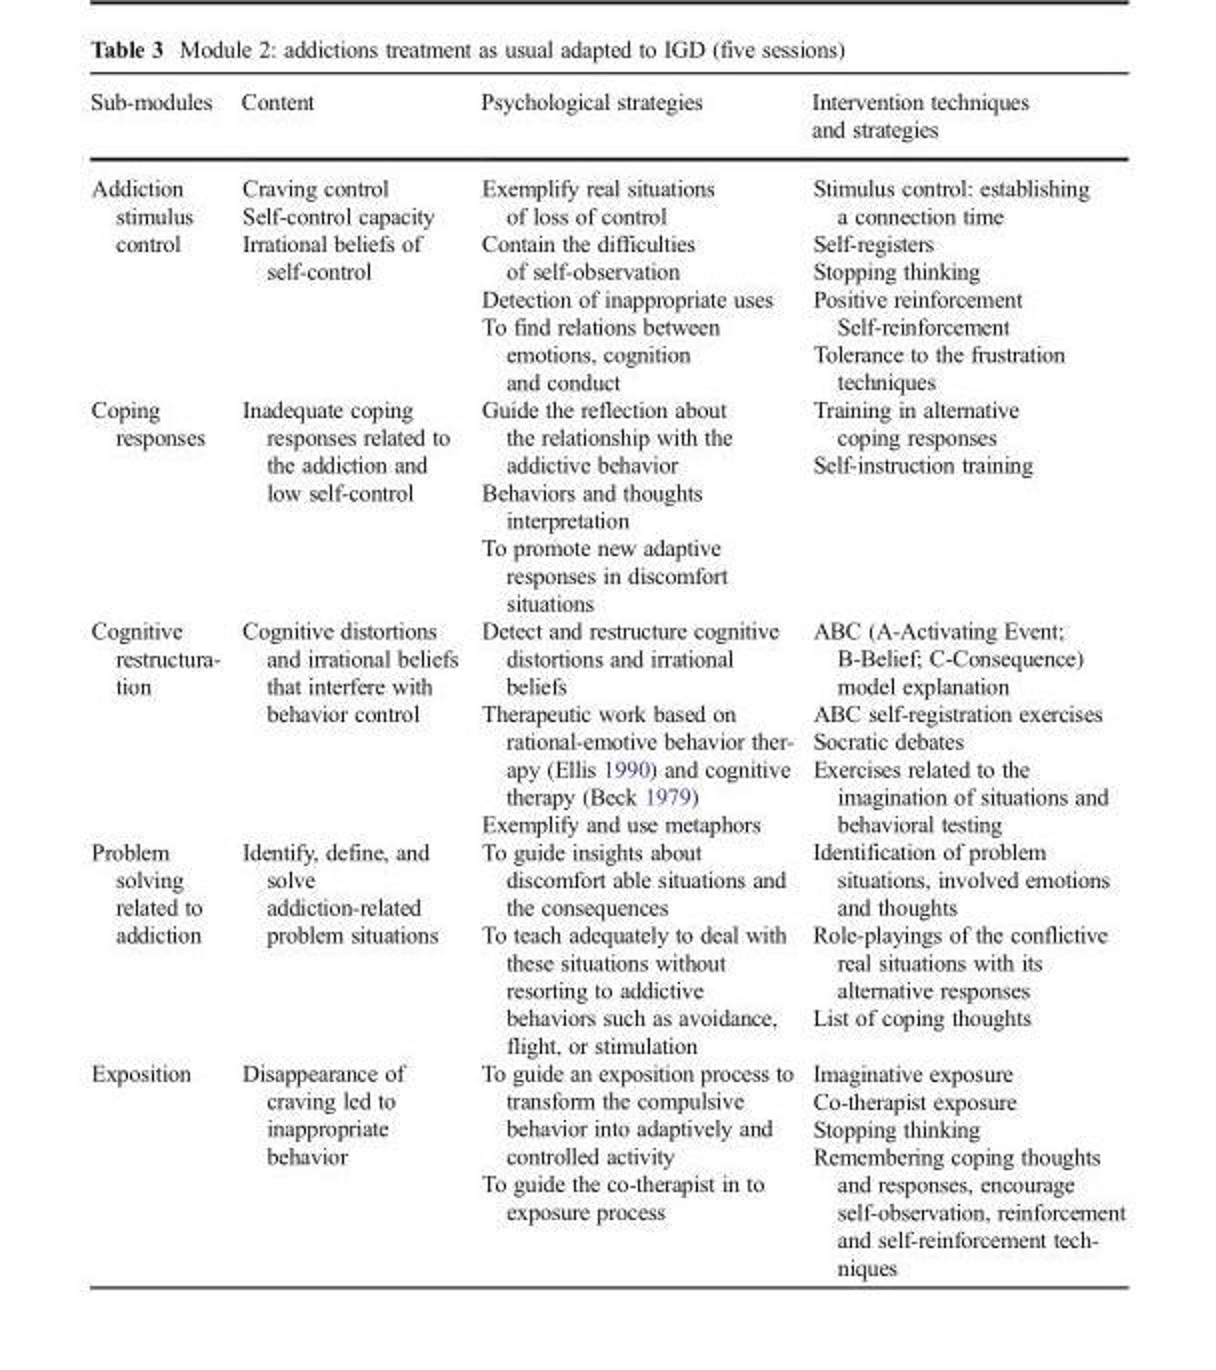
<table><thead><tr><td>Sub-modules</td><td>Content</td><td>Psychological strategies</td><td>Intervention techniques and strategies</td></tr></thead><tbody><tr><td>Addiction stimulus control</td><td>Craving control Self-control capacity Irrational beliefs of self-control</td><td>Exemplify real situations of loss of control Contain the difficulties of self-observation Detection of inappropriate uses To find relations between emotions, cognition and conduct</td><td>Stimulus control: establishing a connection time Self-registers Stopping thinking Positive reinforcement Self-reinforcement Tolerance to the frustration techniques</td></tr><tr><td>Coping responses</td><td>Inadequate coping responses related to the addiction and low self-control</td><td>Guide the reflection about the relationship with the addictive behavior Behaviors and thoughts interpretation To promote new adaptive responses in discomfort situations</td><td>Training in alternative coping responses Self-instruction training</td></tr><tr><td>Cognitive restructura- tion</td><td>Cognitive distortions and irrational beliefs that interfere with behavior control</td><td>Detect and restructure cognitive distortions and irrational beliefs Therapeutic work based on rational-emotive behavior ther- apy (Ellis 1990) and cognitive therapy (Beck 1979) Exemplify and use metaphors</td><td>ABC (A-Activating Event; B-Belief; C-Consequence) model explanation ABC self-registration exercises Socratic debates Exercises related to the imagination of situations and behavioral testing</td></tr><tr><td>Problem solving related to addiction</td><td>Identify, define, and solve addiction-related problem situations</td><td>To guide insights about discomfort able situations and the consequences To teach adequately to deal with these situations without resorting to addictive behaviors such as avoidance, flight, or stimulation</td><td>Identification of problem situations, involved emotions and thoughts Role-playings of the conflictive real situations with its alternative responses List of coping thoughts</td></tr><tr><td>Exposition</td><td>Disappearance of craving led to inappropriate behavior</td><td>To guide an exposition process to transform the compulsive behavior into adaptively and controlled activity To guide the co-therapist in to exposure process</td><td>Imaginative exposure Co-therapist exposure Stopping thinking Remembering coping thoughts and responses, encourage self-observation, reinforcement and self-reinforcement tech- niques</td></tr></tbody></table>